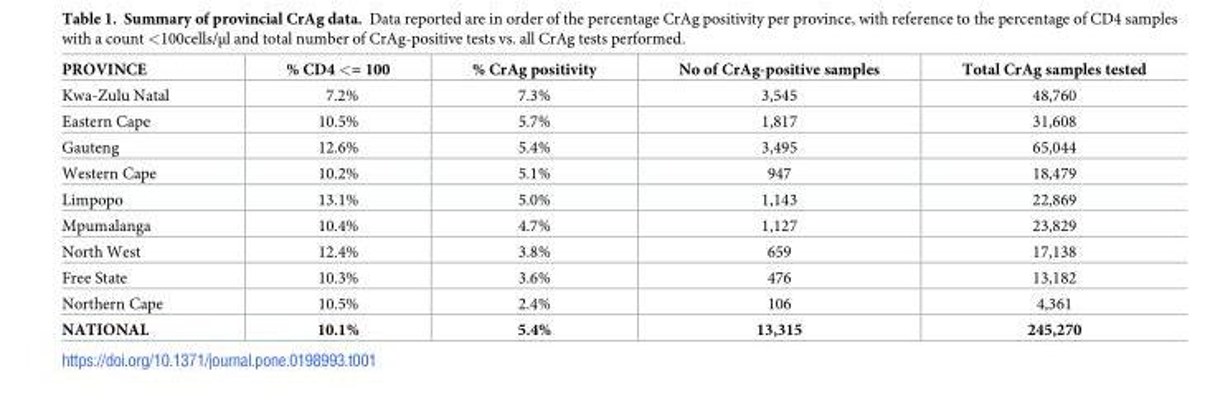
<table><thead><tr><td>PROVINCE</td><td>% CD4 &lt;= 100</td><td>% CrAg positivity</td><td>No of CrAg-positive samples</td><td>Total CrAg samples tested</td></tr></thead><tbody><tr><td>Kwa-Zulu Natal</td><td>7.2%</td><td>7.3%</td><td>3,545</td><td>48,760</td></tr><tr><td>Eastern Cape</td><td>10.5%</td><td>5.7%</td><td>1,817</td><td>31,608</td></tr><tr><td>Gauteng</td><td>12.6%</td><td>5.4%</td><td>3,495</td><td>65,044</td></tr><tr><td>Western Cape</td><td>10.2%</td><td>5.1%</td><td>947</td><td>18,479</td></tr><tr><td>Limpopo</td><td>13.1%</td><td>5.0%</td><td>1,143</td><td>22,869</td></tr><tr><td>Mpumalanga</td><td>10.4%</td><td>4.7%</td><td>1,127</td><td>23,829</td></tr><tr><td>North West</td><td>12.4%</td><td>3.8%</td><td>659</td><td>17,138</td></tr><tr><td>Free State</td><td>10.3%</td><td>3.6%</td><td>476</td><td>13,182</td></tr><tr><td>Northern Cape</td><td>10.5%</td><td>2.4%</td><td>106</td><td>4,361</td></tr><tr><td>NATIONAL</td><td>10.1%</td><td>5.4%</td><td>13,315</td><td>245,270</td></tr></tbody></table>